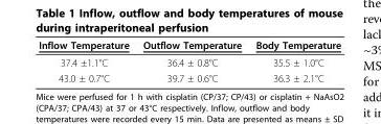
<table><thead><tr><td>Inflow Temperature</td><td>Outflow Temperature</td><td>Body Temperature</td></tr></thead><tbody><tr><td>37.4 ±1.1°C</td><td>36.4 ± 0.8°C</td><td>35.5 ± 1.0°C</td></tr><tr><td>43.0 ± 0.7°C</td><td>39.7 ± 0.6°C</td><td>36.3 ± 2.1°C</td></tr></tbody></table>